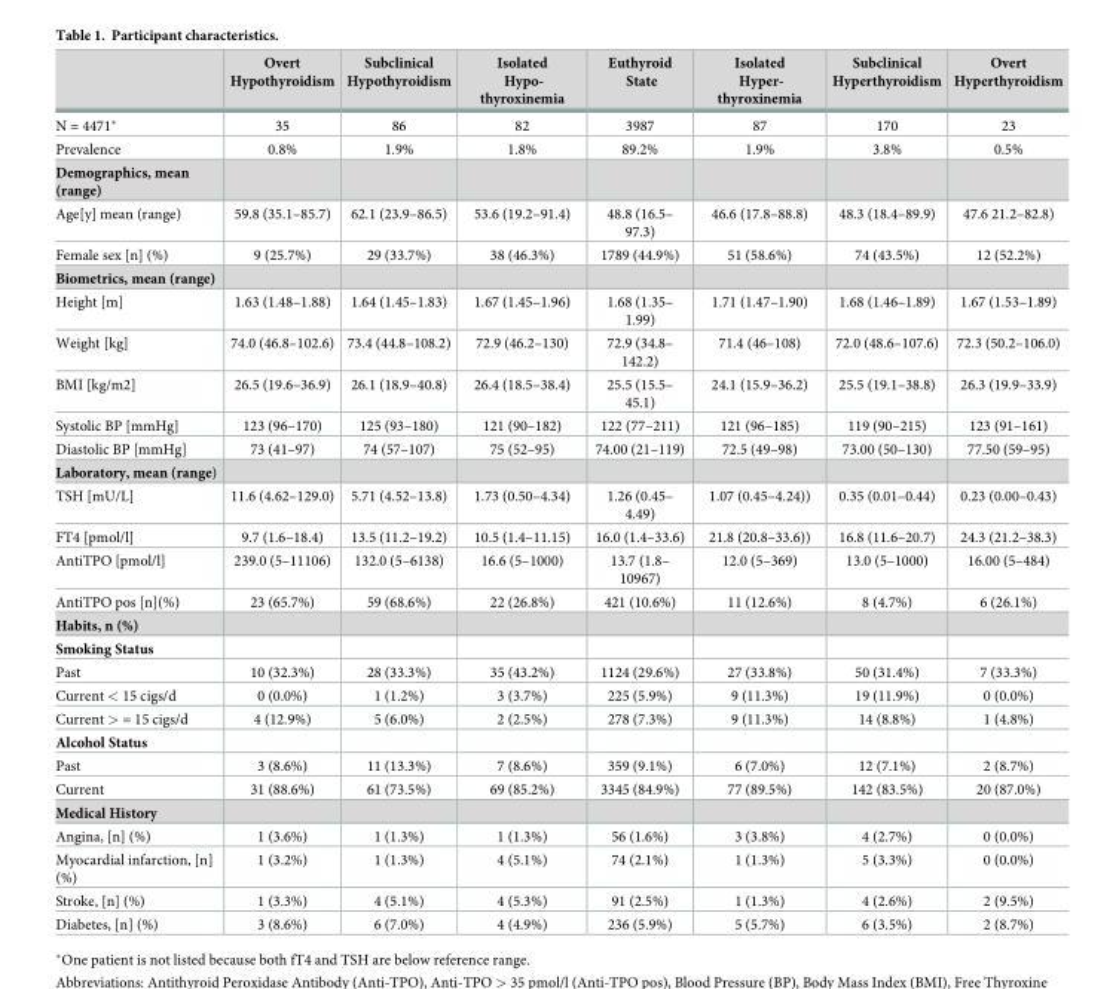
<table><thead><tr><td></td><td>Overt Hypothyroidism</td><td>Subclinical Hypothyroidism</td><td>Isolated Hypo- thyroxinemia</td><td>Euthyroid State</td><td>Isolated Hyper- thyroxinemia</td><td>Subclinical Hyperthyroidism</td><td>Overt Hyperthyroidism</td></tr></thead><tbody><tr><td>N = 4471*</td><td>35</td><td>86</td><td>82</td><td>3987</td><td>87</td><td>170</td><td>23</td></tr><tr><td>Prevalence</td><td>0.8%</td><td>1.9%</td><td>1.8%</td><td>89.2%</td><td>1.9%</td><td>3.8%</td><td>0.5%</td></tr><tr><td colspan="8">Demographics, mean (range)</td></tr><tr><td>Age[y] mean (range)</td><td>59.8 (35.1–85.7)</td><td>62.1 (23.9–86.5)</td><td>53.6 (19.2–91.4)</td><td>48.8 (16.5– 97.3)</td><td>46.6 (17.8–88.8)</td><td>48.3 (18.4–89.9)</td><td>47.6 21.2–82.8)</td></tr><tr><td>Female sex [n] (%)</td><td>9 (25.7%)</td><td>29 (33.7%)</td><td>38 (46.3%)</td><td>1789 (44.9%)</td><td>51 (58.6%)</td><td>74 (43.5%)</td><td>12 (52.2%)</td></tr><tr><td colspan="8">Biometrics, mean (range)</td></tr><tr><td>Height [m]</td><td>1.63 (1.48–1.88)</td><td>1.64 (1.45–1.83)</td><td>1.67 (1.45–1.96)</td><td>1.68 (1.35– 1.99)</td><td>1.71 (1.47–1.90)</td><td>1.68 (1.46–1.89)</td><td>1.67 (1.53–1.89)</td></tr><tr><td>Weight [kg]</td><td>74.0 (46.8–102.6)</td><td>73.4 (44.8–108.2)</td><td>72.9 (46.2–130)</td><td>72.9 (34.8– 142.2)</td><td>71.4 (46–108)</td><td>72.0 (48.6–107.6)</td><td>72.3 (50.2–106.0)</td></tr><tr><td>BMI [kg/m2]</td><td>26.5 (19.6–36.9)</td><td>26.1 (18.9–40.8)</td><td>26.4 (18.5–38.4)</td><td>25.5 (15.5– 45.1)</td><td>24.1 (15.9–36.2)</td><td>25.5 (19.1–38.8)</td><td>26.3 (19.9–33.9)</td></tr><tr><td>Systolic BP [mmHg]</td><td>123 (96–170)</td><td>125 (93–180)</td><td>121 (90–182)</td><td>122 (77–211)</td><td>121 (96–185)</td><td>119 (90–215)</td><td>123 (91–161)</td></tr><tr><td>Diastolic BP [mmHg]</td><td>73 (41–97)</td><td>74 (57–107)</td><td>75 (52–95)</td><td>74.00 (21–119)</td><td>72.5 (49–98)</td><td>73.00 (50–130)</td><td>77.50 (59–95)</td></tr><tr><td colspan="8">Laboratory, mean (range)</td></tr><tr><td>TSH [mU/L]</td><td>11.6 (4.62–129.0)</td><td>5.71 (4.52–13.8)</td><td>1.73 (0.50–4.34)</td><td>1.26 (0.45– 4.49)</td><td>1.07 (0.45–4.24))</td><td>0.35 (0.01–0.44)</td><td>0.23 (0.00–0.43)</td></tr><tr><td>FT4 [pmol/l]</td><td>9.7 (1.6–18.4)</td><td>13.5 (11.2–19.2)</td><td>10.5 (1.4–11.15)</td><td>16.0 (1.4–33.6)</td><td>21.8 (20.8–33.6))</td><td>16.8 (11.6–20.7)</td><td>24.3 (21.2–38.3)</td></tr><tr><td>AntiTPO [pmol/l]</td><td>239.0 (5–11106)</td><td>132.0 (5–6138)</td><td>16.6 (5–1000)</td><td>13.7 (1.8– 10967)</td><td>12.0 (5–369)</td><td>13.0 (5–1000)</td><td>16.00 (5–484)</td></tr><tr><td>AntiTPO pos [n](%)</td><td>23 (65.7%)</td><td>59 (68.6%)</td><td>22 (26.8%)</td><td>421 (10.6%)</td><td>11 (12.6%)</td><td>8 (4.7%)</td><td>6 (26.1%)</td></tr><tr><td colspan="8">Habits, n (%)</td></tr><tr><td colspan="8">Smoking Status</td></tr><tr><td>Past</td><td>10 (32.3%)</td><td>28 (33.3%)</td><td>35 (43.2%)</td><td>1124 (29.6%)</td><td>27 (33.8%)</td><td>50 (31.4%)</td><td>7 (33.3%)</td></tr><tr><td>Current &lt; 15 cigs/d</td><td>0 (0.0%)</td><td>1 (1.2%)</td><td>3 (3.7%)</td><td>225 (5.9%)</td><td>9 (11.3%)</td><td>19 (11.9%)</td><td>0 (0.0%)</td></tr><tr><td>Current &gt; = 15 cigs/d</td><td>4 (12.9%)</td><td>5 (6.0%)</td><td>2 (2.5%)</td><td>278 (7.3%)</td><td>9 (11.3%)</td><td>14 (8.8%)</td><td>1 (4.8%)</td></tr><tr><td colspan="8">Alcohol Status</td></tr><tr><td>Past</td><td>3 (8.6%)</td><td>11 (13.3%)</td><td>7 (8.6%)</td><td>359 (9.1%)</td><td>6 (7.0%)</td><td>12 (7.1%)</td><td>2 (8.7%)</td></tr><tr><td>Current</td><td>31 (88.6%)</td><td>61 (73.5%)</td><td>69 (85.2%)</td><td>3345 (84.9%)</td><td>77 (89.5%)</td><td>142 (83.5%)</td><td>20 (87.0%)</td></tr><tr><td colspan="8">Medical History</td></tr><tr><td>Angina, [n] (%)</td><td>1 (3.6%)</td><td>1 (1.3%)</td><td>1 (1.3%)</td><td>56 (1.6%)</td><td>3 (3.8%)</td><td>4 (2.7%)</td><td>0 (0.0%)</td></tr><tr><td>Myocardial infarction, [n] (%)</td><td>1 (3.2%)</td><td>1 (1.3%)</td><td>4 (5.1%)</td><td>74 (2.1%)</td><td>1 (1.3%)</td><td>5 (3.3%)</td><td>0 (0.0%)</td></tr><tr><td>Stroke, [n] (%)</td><td>1 (3.3%)</td><td>4 (5.1%)</td><td>4 (5.3%)</td><td>91 (2.5%)</td><td>1 (1.3%)</td><td>4 (2.6%)</td><td>2 (9.5%)</td></tr><tr><td>Diabetes, [n] (%)</td><td>3 (8.6%)</td><td>6 (7.0%)</td><td>4 (4.9%)</td><td>236 (5.9%)</td><td>5 (5.7%)</td><td>6 (3.5%)</td><td>2 (8.7%)</td></tr></tbody></table>